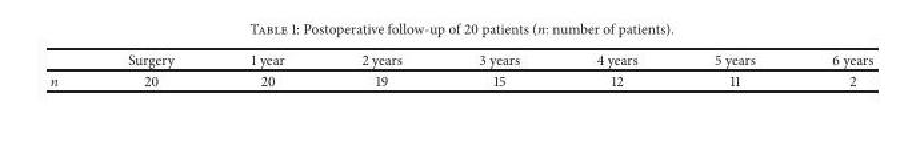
<table><thead><tr><td></td><td>Surgery</td><td>1 year</td><td>2 years</td><td>3 years</td><td>4 years</td><td>5 years</td><td>6 years</td></tr></thead><tbody><tr><td>n</td><td>20</td><td>20</td><td>19</td><td>15</td><td>12</td><td>11</td><td>2</td></tr></tbody></table>